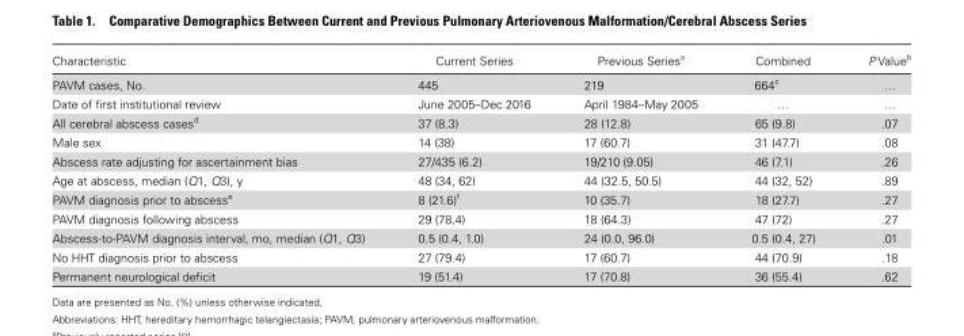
<table><thead><tr><td>Characteristic</td><td>Current Series</td><td>Previous Series<sup>a</sup></td><td>Combined</td><td>P Value<sup>b</sup></td></tr></thead><tbody><tr><td>PAVM cases, No.</td><td>445</td><td>219</td><td>664<sup>c</sup></td><td>…</td></tr><tr><td>Date of first institutional review</td><td>June 2005–Dec 2016</td><td>April 1984–May 2005</td><td>…</td><td>…</td></tr><tr><td>All cerebral abscess cases<sup>d</sup></td><td>37 (8.3)</td><td>28 (12.8)</td><td>65 (9.8)</td><td>.07</td></tr><tr><td>Male sex</td><td>14 (38)</td><td>17 (60.7)</td><td>31 (47.7)</td><td>.08</td></tr><tr><td>Abscess rate adjusting for ascertainment bias</td><td>27/435 (6.2)</td><td>19/210 (9.05)</td><td>46 (7.1)</td><td>.26</td></tr><tr><td>Age at abscess, median (Q1, Q3), y</td><td>48 (34, 62)</td><td>44 (32.5, 50.5)</td><td>44 (32, 52)</td><td>.89</td></tr><tr><td>PAVM diagnosis prior to abscess<sup>e</sup></td><td>8 (21.6)<sup>f</sup></td><td>10 (35.7)</td><td>18 (27.7)</td><td>.27</td></tr><tr><td>PAVM diagnosis following abscess</td><td>29 (78.4)</td><td>18 (64.3)</td><td>47 (72)</td><td>.27</td></tr><tr><td>Abscess-to-PAVM diagnosis interval, mo, median (Q1, Q3)</td><td>0.5 (0.4, 1.0)</td><td>24 (0.0, 96.0)</td><td>0.5 (0.4, 27)</td><td>.01</td></tr><tr><td>No HHT diagnosis prior to abscess</td><td>27 (79.4)</td><td>17 (60.7)</td><td>44 (70.9)</td><td>.18</td></tr><tr><td>Permanent neurological deficit</td><td>19 (51.4)</td><td>17 (70.8)</td><td>36 (55.4)</td><td>.62</td></tr></tbody></table>